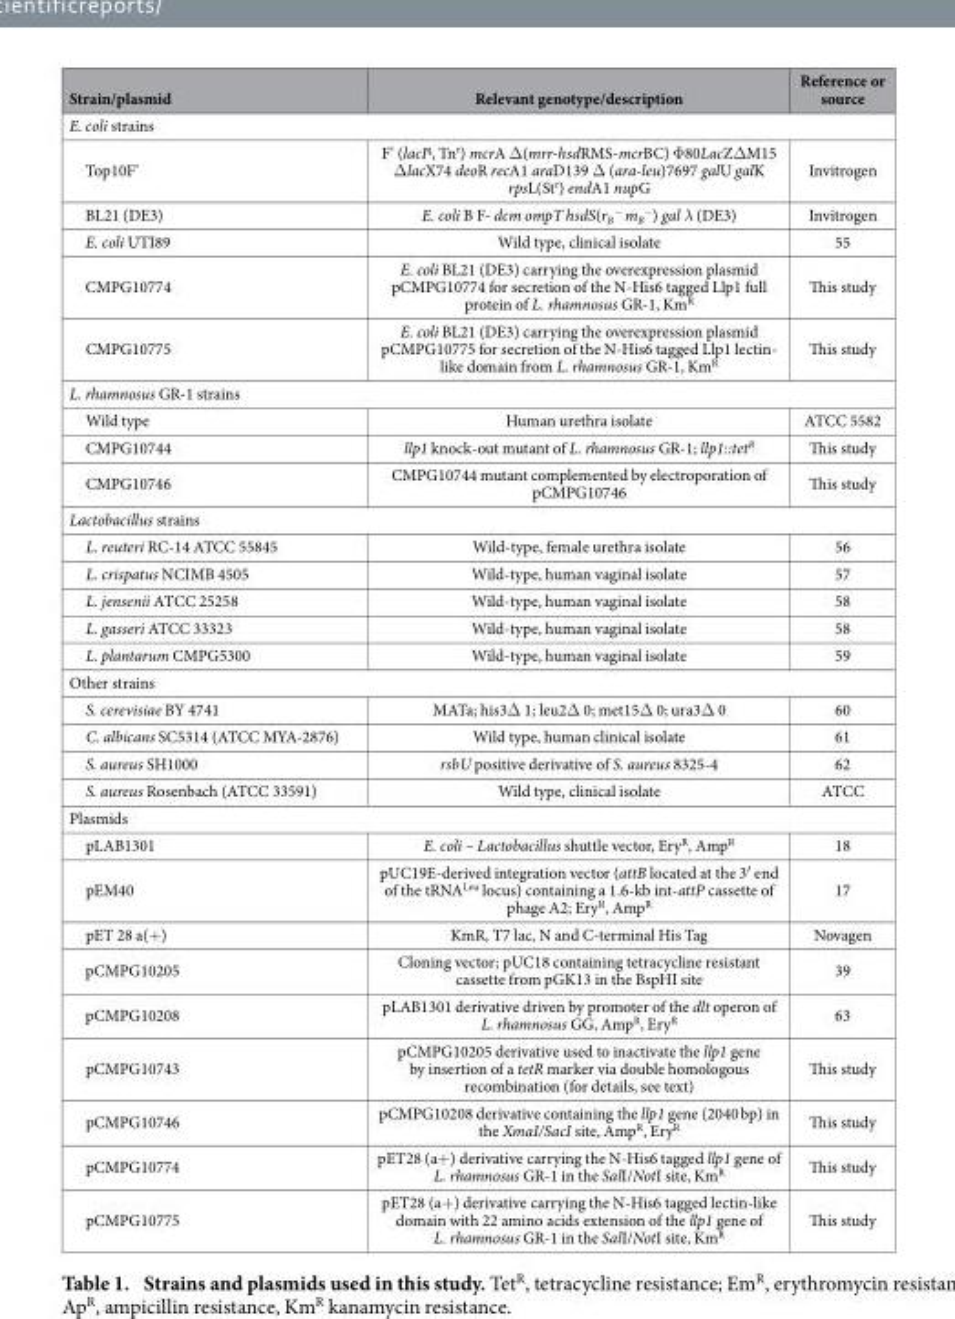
<table><thead><tr><td>Strain/plasmid</td><td>Relevant genotype/description</td><td>Reference or source</td></tr></thead><tbody><tr><td colspan="3">E. coli strains</td></tr><tr><td>Top10F’</td><td>F’ (lacI<sup>q</sup>, Tn<sup>r</sup>) mcrA Δ (mrr-hsdRMS-mcrBC) Φ 80LacZΔ M15 Δ lacX74 deoR recA1 araD139 Δ (ara-leu)7697 galU galK rpsL(St<sup>r</sup>) endA1 nupG</td><td>Invitrogen</td></tr><tr><td>BL21 (DE3)</td><td>E. coli B F- dcm ompT hsdS(r<sub>B</sub> <sup>−</sup> m<sub>B</sub> <sup>−</sup>) gal λ (DE3)</td><td>Invitrogen</td></tr><tr><td>E. coli UTI89</td><td>Wild type, clinical isolate</td><td>55</td></tr><tr><td>CMPG10774</td><td>E. coli BL21 (DE3) carrying the overexpression plasmid pCMPG10774 for secretion of the N-His6 tagged Llp1 full protein of L. rhamnosus GR-1, Km<sup>R</sup></td><td>This study</td></tr><tr><td>CMPG10775</td><td>E. coli BL21 (DE3) carrying the overexpression plasmid pCMPG10775 for secretion of the N-His6 tagged Llp1 lectin- like domain from L. rhamnosus GR-1, Km<sup>R</sup></td><td>This study</td></tr><tr><td colspan="3">L. rhamnosus GR-1 strains</td></tr><tr><td>Wild type</td><td>Human urethra isolate</td><td>ATCC 5582</td></tr><tr><td>CMPG10744</td><td>llp1 knock-out mutant of L. rhamnosus GR-1; llp1::tet<sup>R</sup></td><td>This study</td></tr><tr><td>CMPG10746</td><td>CMPG10744 mutant complemented by electroporation of pCMPG10746</td><td>This study</td></tr><tr><td colspan="3">Lactobacillus strains</td></tr><tr><td>L. reuteri RC-14 ATCC 55845</td><td>Wild-type, female urethra isolate</td><td>56</td></tr><tr><td>L. crispatus NCIMB 4505</td><td>Wild-type, human vaginal isolate</td><td>57</td></tr><tr><td>L. jensenii ATCC 25258</td><td>Wild-type, human vaginal isolate</td><td>58</td></tr><tr><td>L. gasseri ATCC 33323</td><td>Wild-type, human vaginal isolate</td><td>58</td></tr><tr><td>L. plantarum CMPG5300</td><td>Wild-type, human vaginal isolate</td><td>59</td></tr><tr><td colspan="3">Other strains</td></tr><tr><td>S. cerevisiae BY 4741</td><td>MATa; his3Δ 1; leu2Δ 0; met15Δ 0; ura3Δ 0</td><td>60</td></tr><tr><td>C. albicans SC5314 (ATCC MYA-2876)</td><td>Wild type, human clinical isolate</td><td>61</td></tr><tr><td>S. aureus SH1000</td><td>rsbU positive derivative of S. aureus 8325-4</td><td>62</td></tr><tr><td>S. aureus Rosenbach (ATCC 33591)</td><td>Wild type, clinical isolate</td><td>ATCC</td></tr><tr><td colspan="3">Plasmids</td></tr><tr><td>pLAB1301</td><td>E. coli – Lactobacillus shuttle vector, Ery<sup>R</sup>, Amp<sup>R</sup></td><td>18</td></tr><tr><td>pEM40</td><td>pUC19E-derived integration vector (attB located at the 3′ end of the tRNA<sup>Leu</sup> locus) containing a 1.6-kb int-attP cassette of phage A2; Ery<sup>R</sup>, Amp<sup>R</sup></td><td>17</td></tr><tr><td>pET 28 a(+ )</td><td>KmR, T7 lac, N and C-terminal His Tag</td><td>Novagen</td></tr><tr><td>pCMPG10205</td><td>Cloning vector; pUC18 containing tetracycline resistant cassette from pGK13 in the BspHI site</td><td>39</td></tr><tr><td>pCMPG10208</td><td>pLAB1301 derivative driven by promoter of the dlt operon of L. rhamnosus GG, Amp<sup>R</sup>, Ery<sup>R</sup></td><td>63</td></tr><tr><td>pCMPG10743</td><td>pCMPG10205 derivative used to inactivate the llp1 gene by insertion of a tetR marker via double homologous recombination (for details, see text)</td><td>This study</td></tr><tr><td>pCMPG10746</td><td>pCMPG10208 derivative containing the llp1 gene (2040 bp) in the XmaI/SacI site, Amp<sup>R</sup>, Ery<sup>R</sup></td><td>This study</td></tr><tr><td>pCMPG10774</td><td>pET28 (a+ ) derivative carrying the N-His6 tagged llp1 gene of L. rhamnosus GR-1 in the SalI/NotI site, Km<sup>R</sup></td><td>This study</td></tr><tr><td>pCMPG10775</td><td>pET28 (a+ ) derivative carrying the N-His6 tagged lectin-like domain with 22 amino acids extension of the llp1 gene of L. rhamnosus GR-1 in the SalI/NotI site, Km<sup>R</sup></td><td>This study</td></tr></tbody></table>